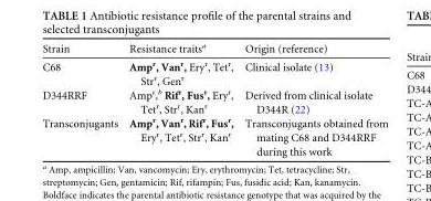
<table><thead><tr><td>Strain</td><td>Resistance traits<sup>a</sup></td><td>Origin (reference)</td></tr></thead><tbody><tr><td>C68</td><td>Amp<sup>r</sup>, Van<sup>r</sup>, Ery<sup>r</sup>, Tet<sup>r</sup>, Str<sup>r</sup>, Gen<sup>r</sup></td><td>Clinical isolate (13)</td></tr><tr><td>D344RRF</td><td>Amp<sup>r</sup>,<sup>b</sup> Rif<sup>r</sup>, Fus<sup>r</sup>, Ery<sup>r</sup>, Tet<sup>r</sup>, Str<sup>r</sup>, Kan<sup>r</sup></td><td>Derived from clinical isolate D344R (22)</td></tr><tr><td>Transconjugants</td><td>Amp<sup>r</sup>, Van<sup>r</sup>, Rif<sup>r</sup>, Fus<sup>r</sup>, Ery<sup>r</sup>, Tet<sup>r</sup>, Str<sup>r</sup>, Kan<sup>r</sup></td><td>Transconjugants obtained from mating C68 and D344RRF during this work</td></tr></tbody></table>